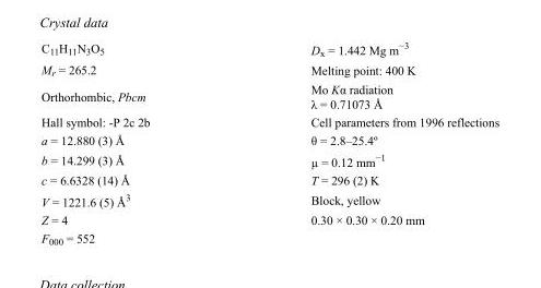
<table><tbody><tr><td>C<sub>11</sub>H<sub>11</sub>N<sub>3</sub>O<sub>5</sub></td><td>D<sub>x</sub> = 1.442 Mg m<sup>−3</sup></td></tr><tr><td>M<sub>r</sub> = 265.2</td><td>Melting point: 400 K</td></tr><tr><td>Orthorhombic, Pbcm</td><td>Mo Kα radiation λ = 0.71073 Å</td></tr><tr><td>Hall symbol: -P 2c 2b</td><td>Cell parameters from 1996 reflections</td></tr><tr><td>a = 12.880 (3) Å</td><td>θ = 2.8–25.4º</td></tr><tr><td>b = 14.299 (3) Å</td><td>µ = 0.12 mm<sup>−1</sup></td></tr><tr><td>c = 6.6328 (14) Å</td><td>T = 296 (2) K</td></tr><tr><td>V = 1221.6 (5) Å<sup>3</sup></td><td>Block, yellow</td></tr><tr><td>Z = 4</td><td>0.30 × 0.30 × 0.20 mm</td></tr><tr><td>F<sub>000</sub> = 552</td><td></td></tr></tbody></table>